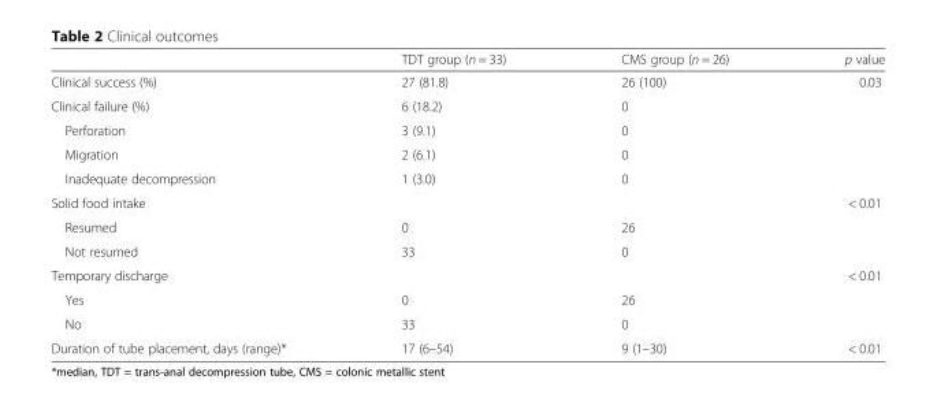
<table><thead><tr><td></td><td>TDT group (n = 33)</td><td>CMS group (n = 26)</td><td>p value</td></tr></thead><tbody><tr><td>Clinical success (%)</td><td>27 (81.8)</td><td>26 (100)</td><td>0.03</td></tr><tr><td>Clinical failure (%)</td><td>6 (18.2)</td><td>0</td><td></td></tr><tr><td>Perforation</td><td>3 (9.1)</td><td>0</td><td></td></tr><tr><td>Migration</td><td>2 (6.1)</td><td>0</td><td></td></tr><tr><td>Inadequate decompression</td><td>1 (3.0)</td><td>0</td><td></td></tr><tr><td colspan="3">Solid food intake</td><td>&lt; 0.01</td></tr><tr><td>Resumed</td><td>0</td><td>26</td><td></td></tr><tr><td>Not resumed</td><td>33</td><td>0</td><td></td></tr><tr><td colspan="3">Temporary discharge</td><td>&lt; 0.01</td></tr><tr><td>Yes</td><td>0</td><td>26</td><td></td></tr><tr><td>No</td><td>33</td><td>0</td><td></td></tr><tr><td>Duration of tube placement, days (range)*</td><td>17 (6–54)</td><td>9 (1–30)</td><td>&lt; 0.01</td></tr></tbody></table>